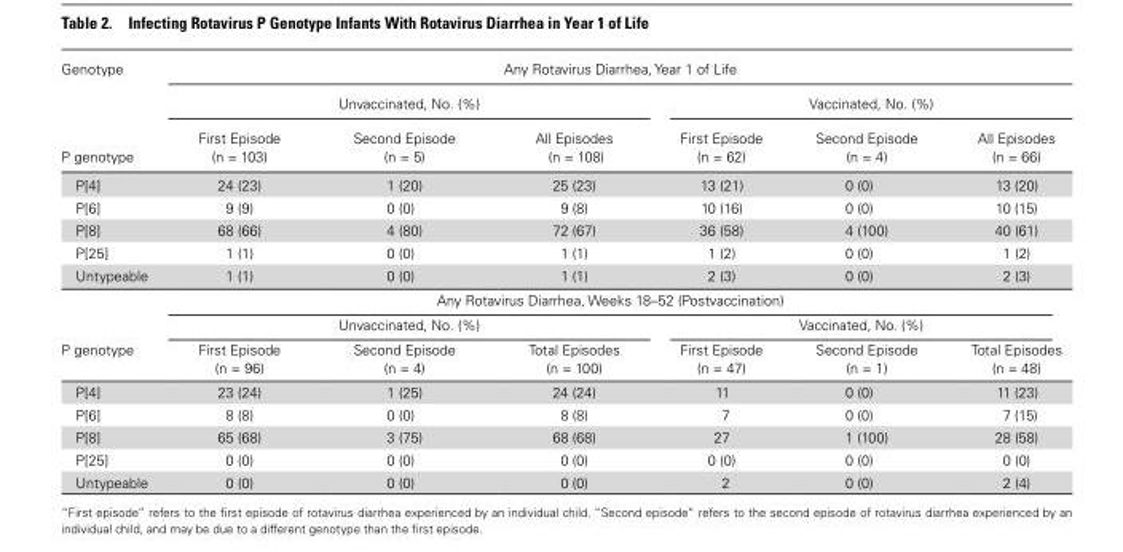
<table><thead><tr><td rowspan="3">Genotype P genotype</td><td colspan="6">Any Rotavirus Diarrhea, Year 1 of Life</td></tr><tr><td colspan="3">Unvaccinated, No. (%)</td><td colspan="3">Vaccinated, No. (%)</td></tr><tr><td>First Episode (n = 103)</td><td>Second Episode (n = 5)</td><td>All Episodes (n = 108)</td><td>First Episode (n = 62)</td><td>Second Episode (n = 4)</td><td>All Episodes (n = 66)</td></tr></thead><tbody><tr><td>P[4]</td><td>24 (23)</td><td>1 (20)</td><td>25 (23)</td><td>13 (21)</td><td>0 (0)</td><td>13 (20)</td></tr><tr><td>P[6]</td><td>9 (9)</td><td>0 (0)</td><td>9 (8)</td><td>10 (16)</td><td>0 (0)</td><td>10 (15)</td></tr><tr><td>P[8]</td><td>68 (66)</td><td>4 (80)</td><td>72 (67)</td><td>36 (58)</td><td>4 (100)</td><td>40 (61)</td></tr><tr><td>P[25]</td><td>1 (1)</td><td>0 (0)</td><td>1 (1)</td><td>1 (2)</td><td>0 (0)</td><td>1 (2)</td></tr><tr><td rowspan="3">Untypeable</td><td>1 (1)</td><td>0 (0)</td><td>1 (1)</td><td>2 (3)</td><td>0 (0)</td><td>2 (3)</td></tr><tr><td colspan="6">Any Rotavirus Diarrhea, Weeks 18–52 (Postvaccination)</td></tr><tr><td colspan="3">Unvaccinated, No. (%)</td><td colspan="3">Vaccinated, No. (%)</td></tr><tr><td>P genotype</td><td>First Episode (n = 96)</td><td>Second Episode (n = 4)</td><td>Total Episodes (n = 100)</td><td>First Episode (n = 47)</td><td>Second Episode (n = 1)</td><td>Total Episodes (n = 48)</td></tr><tr><td>P[4]</td><td>23 (24)</td><td>1 (25)</td><td>24 (24)</td><td>11</td><td>0 (0)</td><td>11 (23)</td></tr><tr><td>P[6]</td><td>8 (8)</td><td>0 (0)</td><td>8 (8)</td><td>7</td><td>0 (0)</td><td>7 (15)</td></tr><tr><td>P[8]</td><td>65 (68)</td><td>3 (75)</td><td>68 (68)</td><td>27</td><td>1 (100)</td><td>28 (58)</td></tr><tr><td>P[25]</td><td>0 (0)</td><td>0 (0)</td><td>0 (0)</td><td>0 (0)</td><td>0 (0)</td><td>0 (0)</td></tr><tr><td>Untypeable</td><td>0 (0)</td><td>0 (0)</td><td>0 (0)</td><td>2</td><td>0 (0)</td><td>2 (4)</td></tr></tbody></table>